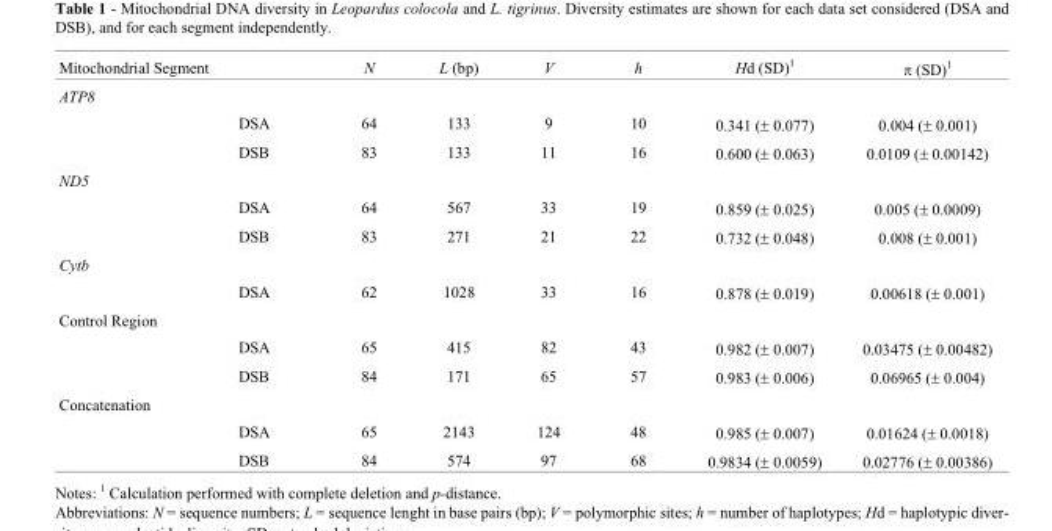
<table><thead><tr><td>Mitochondrial Segment</td><td></td><td>N</td><td>L (bp)</td><td>V</td><td>h</td><td>Hd (SD)<sup>1</sup></td><td>π (SD)<sup>1</sup></td></tr></thead><tbody><tr><td colspan="8">ATP8</td></tr><tr><td></td><td>DSA</td><td>64</td><td>133</td><td>9</td><td>10</td><td>0.341 (� 0.077)</td><td>0.004 (± 0.001)</td></tr><tr><td></td><td>DSB</td><td>83</td><td>133</td><td>11</td><td>16</td><td>0.600 (± 0.063)</td><td>0.0109 (± 0.00142)</td></tr><tr><td colspan="8">ND5</td></tr><tr><td></td><td>DSA</td><td>64</td><td>567</td><td>33</td><td>19</td><td>0.859 (± 0.025)</td><td>0.005 (± 0.0009)</td></tr><tr><td></td><td>DSB</td><td>83</td><td>271</td><td>21</td><td>22</td><td>0.732 (± 0.048)</td><td>0.008 (± 0.001)</td></tr><tr><td colspan="8">Cytb</td></tr><tr><td></td><td>DSA</td><td>62</td><td>1028</td><td>33</td><td>16</td><td>0.878 (± 0.019)</td><td>0.00618 (± 0.001)</td></tr><tr><td colspan="8">Control Region</td></tr><tr><td></td><td>DSA</td><td>65</td><td>415</td><td>82</td><td>43</td><td>0.982 (± 0.007)</td><td>0.03475 (± 0.00482)</td></tr><tr><td></td><td>DSB</td><td>84</td><td>171</td><td>65</td><td>57</td><td>0.983 (± 0.006)</td><td>0.06965 (± 0.004)</td></tr><tr><td colspan="8">Concatenation</td></tr><tr><td></td><td>DSA</td><td>65</td><td>2143</td><td>124</td><td>48</td><td>0.985 (± 0.007)</td><td>0.01624 (± 0.0018)</td></tr><tr><td></td><td>DSB</td><td>84</td><td>574</td><td>97</td><td>68</td><td>0.9834 (± 0.0059)</td><td>0.02776 (± 0.00386)</td></tr></tbody></table>